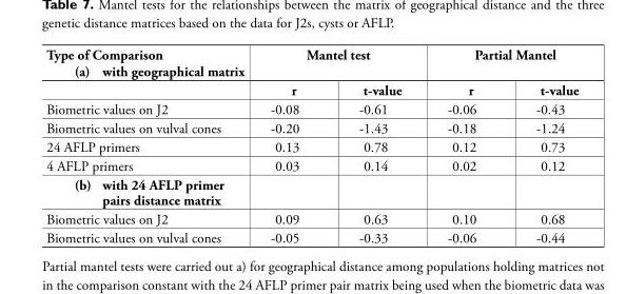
<table><thead><tr><td rowspan="2">Type of Comparison (a) with geographical matrix</td><td colspan="2">Mantel test</td><td colspan="2">Partial Mantel</td></tr><tr><td>r</td><td>t-value</td><td>r</td><td>t-value</td></tr></thead><tbody><tr><td>Biometric values on J2</td><td>-0.08</td><td>-0.61</td><td>-0.06</td><td>-0.43</td></tr><tr><td>Biometric values on vulval cones</td><td>-0.20</td><td>-1.43</td><td>-0.18</td><td>-1.24</td></tr><tr><td>24 AFLP primers</td><td>0.13</td><td>0.78</td><td>0.12</td><td>0.73</td></tr><tr><td>4 AFLP primers</td><td>0.03</td><td>0.14</td><td>0.02</td><td>0.12</td></tr><tr><td colspan="5">(b) with 24 AFLP primer pairs distance matrix</td></tr><tr><td>Biometric values on J2</td><td>0.09</td><td>0.63</td><td>0.10</td><td>0.68</td></tr><tr><td>Biometric values on vulval cones</td><td>-0.05</td><td>-0.33</td><td>-0.06</td><td>-0.44</td></tr></tbody></table>